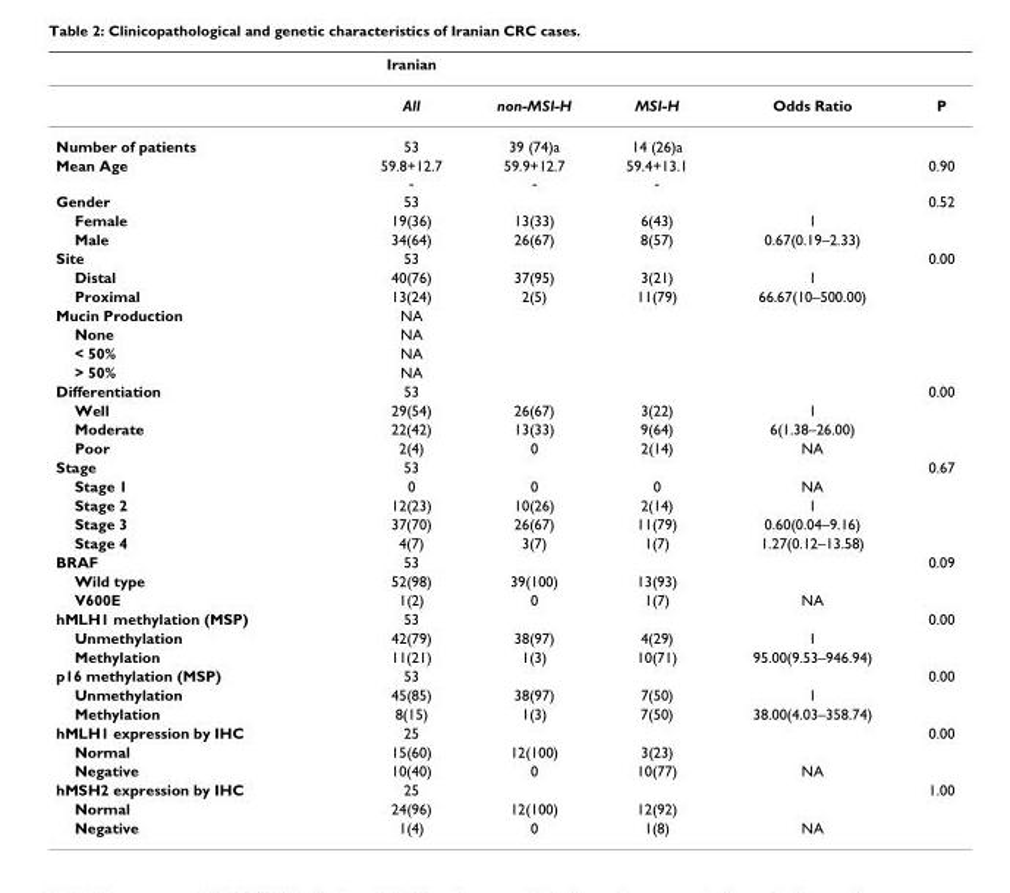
<table><thead><tr><td></td><td>Iranian</td><td></td><td></td><td></td><td></td></tr></thead><tbody><tr><td></td><td>All</td><td>non-MSI-H</td><td>MSI-H</td><td>Odds Ratio</td><td>P</td></tr><tr><td>Number of patients</td><td>53</td><td>39 (74)a</td><td>14 (26)a</td><td></td><td></td></tr><tr><td>Mean Age</td><td>59.8+12.7 -</td><td>59.9+12.7 -</td><td>59.4+13.1 -</td><td></td><td>0.90</td></tr><tr><td>Gender</td><td>53</td><td></td><td></td><td></td><td>0.52</td></tr><tr><td>Female</td><td>19(36)</td><td>13(33)</td><td>6(43)</td><td>1</td><td></td></tr><tr><td>Male</td><td>34(64)</td><td>26(67)</td><td>8(57)</td><td>0.67(0.19–2.33)</td><td></td></tr><tr><td>Site</td><td>53</td><td></td><td></td><td></td><td>0.00</td></tr><tr><td>Distal</td><td>40(76)</td><td>37(95)</td><td>3(21)</td><td>1</td><td></td></tr><tr><td>Proximal</td><td>13(24)</td><td>2(5)</td><td>11(79)</td><td>66.67(10–500.00)</td><td></td></tr><tr><td>Mucin Production</td><td>NA</td><td></td><td></td><td></td><td></td></tr><tr><td>None</td><td>NA</td><td></td><td></td><td></td><td></td></tr><tr><td>&lt; 50%</td><td>NA</td><td></td><td></td><td></td><td></td></tr><tr><td>&gt; 50%</td><td>NA</td><td></td><td></td><td></td><td></td></tr><tr><td>Differentiation</td><td>53</td><td></td><td></td><td></td><td>0.00</td></tr><tr><td>Well</td><td>29(54)</td><td>26(67)</td><td>3(22)</td><td>1</td><td></td></tr><tr><td>Moderate</td><td>22(42)</td><td>13(33)</td><td>9(64)</td><td>6(1.38–26.00)</td><td></td></tr><tr><td>Poor</td><td>2(4)</td><td>0</td><td>2(14)</td><td>NA</td><td></td></tr><tr><td>Stage</td><td>53</td><td></td><td></td><td></td><td>0.67</td></tr><tr><td>Stage 1</td><td>0</td><td>0</td><td>0</td><td>NA</td><td></td></tr><tr><td>Stage 2</td><td>12(23)</td><td>10(26)</td><td>2(14)</td><td>1</td><td></td></tr><tr><td>Stage 3</td><td>37(70)</td><td>26(67)</td><td>11(79)</td><td>0.60(0.04–9.16)</td><td></td></tr><tr><td>Stage 4</td><td>4(7)</td><td>3(7)</td><td>1(7)</td><td>1.27(0.12–13.58)</td><td></td></tr><tr><td>BRAF</td><td>53</td><td></td><td></td><td></td><td>0.09</td></tr><tr><td>Wild type</td><td>52(98)</td><td>39(100)</td><td>13(93)</td><td></td><td></td></tr><tr><td>V600E</td><td>1(2)</td><td>0</td><td>1(7)</td><td>NA</td><td></td></tr><tr><td>hMLH1 methylation (MSP)</td><td>53</td><td></td><td></td><td></td><td>0.00</td></tr><tr><td>Unmethylation</td><td>42(79)</td><td>38(97)</td><td>4(29)</td><td>1</td><td></td></tr><tr><td>Methylation</td><td>11(21)</td><td>1(3)</td><td>10(71)</td><td>95.00(9.53–946.94)</td><td></td></tr><tr><td>p16 methylation (MSP)</td><td>53</td><td></td><td></td><td></td><td>0.00</td></tr><tr><td>Unmethylation</td><td>45(85)</td><td>38(97)</td><td>7(50)</td><td>1</td><td></td></tr><tr><td>Methylation</td><td>8(15)</td><td>1(3)</td><td>7(50)</td><td>38.00(4.03–358.74)</td><td></td></tr><tr><td>hMLH1 expression by IHC</td><td>25</td><td></td><td></td><td></td><td>0.00</td></tr><tr><td>Normal</td><td>15(60)</td><td>12(100)</td><td>3(23)</td><td></td><td></td></tr><tr><td>Negative</td><td>10(40)</td><td>0</td><td>10(77)</td><td>NA</td><td></td></tr><tr><td>hMSH2 expression by IHC</td><td>25</td><td></td><td></td><td></td><td>1.00</td></tr><tr><td>Normal</td><td>24(96)</td><td>12(100)</td><td>12(92)</td><td></td><td></td></tr><tr><td>Negative</td><td>1(4)</td><td>0</td><td>1(8)</td><td>NA</td><td></td></tr></tbody></table>